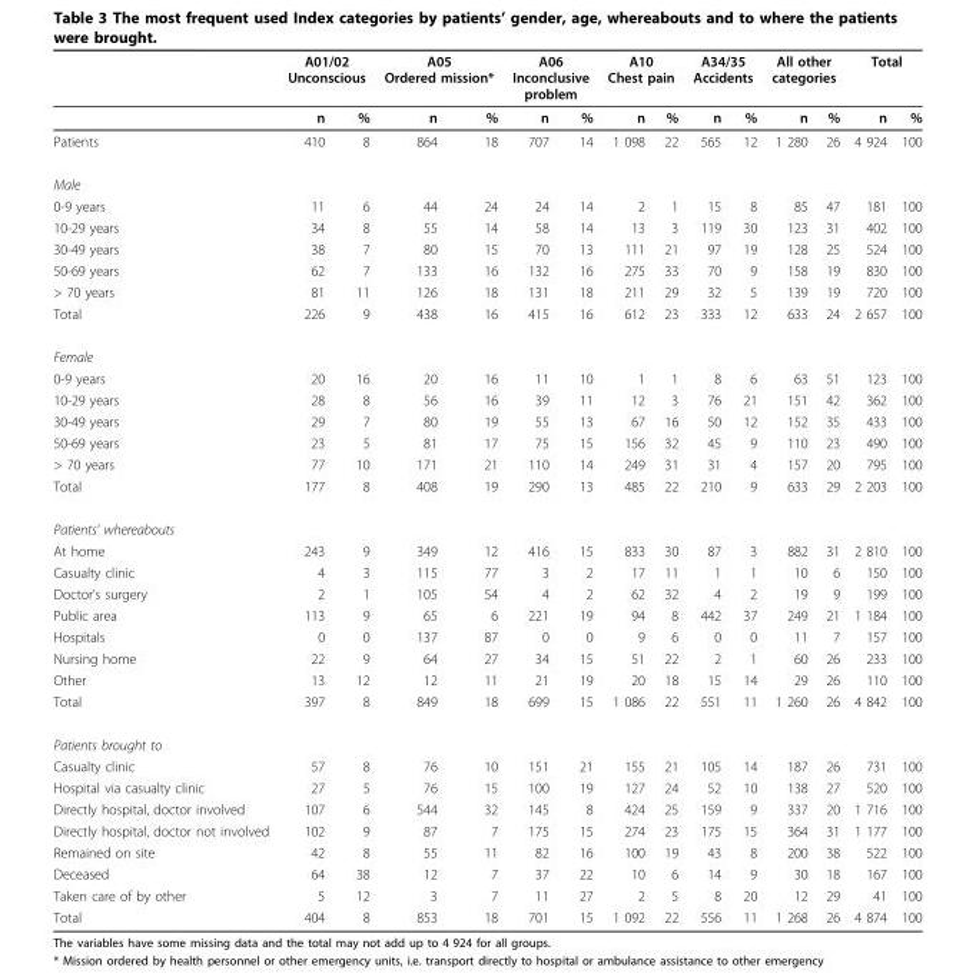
<table><thead><tr><td rowspan="2"></td><td colspan="2">A01/02 Unconscious</td><td colspan="2">A05 Ordered mission*</td><td colspan="2">A06 Inconclusive problem</td><td colspan="2">A10 Chest pain</td><td colspan="2">A34/35 Accidents</td><td colspan="2">All other categories</td><td colspan="2">Total</td></tr><tr><td>n</td><td>%</td><td>n</td><td>%</td><td>n</td><td>%</td><td>n</td><td>%</td><td>n</td><td>%</td><td>n</td><td>%</td><td>n</td><td>%</td></tr></thead><tbody><tr><td>Patients</td><td>410</td><td>8</td><td>864</td><td>18</td><td>707</td><td>14</td><td>1 098</td><td>22</td><td>565</td><td>12</td><td>1 280</td><td>26</td><td>4 924</td><td>100</td></tr><tr><td colspan="15">Male</td></tr><tr><td>0-9 years</td><td>11</td><td>6</td><td>44</td><td>24</td><td>24</td><td>14</td><td>2</td><td>1</td><td>15</td><td>8</td><td>85</td><td>47</td><td>181</td><td>100</td></tr><tr><td>10-29 years</td><td>34</td><td>8</td><td>55</td><td>14</td><td>58</td><td>14</td><td>13</td><td>3</td><td>119</td><td>30</td><td>123</td><td>31</td><td>402</td><td>100</td></tr><tr><td>30-49 years</td><td>38</td><td>7</td><td>80</td><td>15</td><td>70</td><td>13</td><td>111</td><td>21</td><td>97</td><td>19</td><td>128</td><td>25</td><td>524</td><td>100</td></tr><tr><td>50-69 years</td><td>62</td><td>7</td><td>133</td><td>16</td><td>132</td><td>16</td><td>275</td><td>33</td><td>70</td><td>9</td><td>158</td><td>19</td><td>830</td><td>100</td></tr><tr><td>&gt; 70 years</td><td>81</td><td>11</td><td>126</td><td>18</td><td>131</td><td>18</td><td>211</td><td>29</td><td>32</td><td>5</td><td>139</td><td>19</td><td>720</td><td>100</td></tr><tr><td>Total</td><td>226</td><td>9</td><td>438</td><td>16</td><td>415</td><td>16</td><td>612</td><td>23</td><td>333</td><td>12</td><td>633</td><td>24</td><td>2 657</td><td>100</td></tr><tr><td colspan="15">Female</td></tr><tr><td>0-9 years</td><td>20</td><td>16</td><td>20</td><td>16</td><td>11</td><td>10</td><td>1</td><td>1</td><td>8</td><td>6</td><td>63</td><td>51</td><td>123</td><td>100</td></tr><tr><td>10-29 years</td><td>28</td><td>8</td><td>56</td><td>16</td><td>39</td><td>11</td><td>12</td><td>3</td><td>76</td><td>21</td><td>151</td><td>42</td><td>362</td><td>100</td></tr><tr><td>30-49 years</td><td>29</td><td>7</td><td>80</td><td>19</td><td>55</td><td>13</td><td>67</td><td>16</td><td>50</td><td>12</td><td>152</td><td>35</td><td>433</td><td>100</td></tr><tr><td>50-69 years</td><td>23</td><td>5</td><td>81</td><td>17</td><td>75</td><td>15</td><td>156</td><td>32</td><td>45</td><td>9</td><td>110</td><td>23</td><td>490</td><td>100</td></tr><tr><td>&gt; 70 years</td><td>77</td><td>10</td><td>171</td><td>21</td><td>110</td><td>14</td><td>249</td><td>31</td><td>31</td><td>4</td><td>157</td><td>20</td><td>795</td><td>100</td></tr><tr><td>Total</td><td>177</td><td>8</td><td>408</td><td>19</td><td>290</td><td>13</td><td>485</td><td>22</td><td>210</td><td>9</td><td>633</td><td>29</td><td>2 203</td><td>100</td></tr><tr><td colspan="15">Patients’ whereabouts</td></tr><tr><td>At home</td><td>243</td><td>9</td><td>349</td><td>12</td><td>416</td><td>15</td><td>833</td><td>30</td><td>87</td><td>3</td><td>882</td><td>31</td><td>2 810</td><td>100</td></tr><tr><td>Casualty clinic</td><td>4</td><td>3</td><td>115</td><td>77</td><td>3</td><td>2</td><td>17</td><td>11</td><td>1</td><td>1</td><td>10</td><td>6</td><td>150</td><td>100</td></tr><tr><td>Doctor’s surgery</td><td>2</td><td>1</td><td>105</td><td>54</td><td>4</td><td>2</td><td>62</td><td>32</td><td>4</td><td>2</td><td>19</td><td>9</td><td>199</td><td>100</td></tr><tr><td>Public area</td><td>113</td><td>9</td><td>65</td><td>6</td><td>221</td><td>19</td><td>94</td><td>8</td><td>442</td><td>37</td><td>249</td><td>21</td><td>1 184</td><td>100</td></tr><tr><td>Hospitals</td><td>0</td><td>0</td><td>137</td><td>87</td><td>0</td><td>0</td><td>9</td><td>6</td><td>0</td><td>0</td><td>11</td><td>7</td><td>157</td><td>100</td></tr><tr><td>Nursing home</td><td>22</td><td>9</td><td>64</td><td>27</td><td>34</td><td>15</td><td>51</td><td>22</td><td>2</td><td>1</td><td>60</td><td>26</td><td>233</td><td>100</td></tr><tr><td>Other</td><td>13</td><td>12</td><td>12</td><td>11</td><td>21</td><td>19</td><td>20</td><td>18</td><td>15</td><td>14</td><td>29</td><td>26</td><td>110</td><td>100</td></tr><tr><td>Total</td><td>397</td><td>8</td><td>849</td><td>18</td><td>699</td><td>15</td><td>1 086</td><td>22</td><td>551</td><td>11</td><td>1 260</td><td>26</td><td>4 842</td><td>100</td></tr><tr><td colspan="15">Patients brought to</td></tr><tr><td>Casualty clinic</td><td>57</td><td>8</td><td>76</td><td>10</td><td>151</td><td>21</td><td>155</td><td>21</td><td>105</td><td>14</td><td>187</td><td>26</td><td>731</td><td>100</td></tr><tr><td>Hospital via casualty clinic</td><td>27</td><td>5</td><td>76</td><td>15</td><td>100</td><td>19</td><td>127</td><td>24</td><td>52</td><td>10</td><td>138</td><td>27</td><td>520</td><td>100</td></tr><tr><td>Directly hospital, doctor involved</td><td>107</td><td>6</td><td>544</td><td>32</td><td>145</td><td>8</td><td>424</td><td>25</td><td>159</td><td>9</td><td>337</td><td>20</td><td>1 716</td><td>100</td></tr><tr><td>Directly hospital, doctor not involved</td><td>102</td><td>9</td><td>87</td><td>7</td><td>175</td><td>15</td><td>274</td><td>23</td><td>175</td><td>15</td><td>364</td><td>31</td><td>1 177</td><td>100</td></tr><tr><td>Remained on site</td><td>42</td><td>8</td><td>55</td><td>11</td><td>82</td><td>16</td><td>100</td><td>19</td><td>43</td><td>8</td><td>200</td><td>38</td><td>522</td><td>100</td></tr><tr><td>Deceased</td><td>64</td><td>38</td><td>12</td><td>7</td><td>37</td><td>22</td><td>10</td><td>6</td><td>14</td><td>9</td><td>30</td><td>18</td><td>167</td><td>100</td></tr><tr><td>Taken care of by other</td><td>5</td><td>12</td><td>3</td><td>7</td><td>11</td><td>27</td><td>2</td><td>5</td><td>8</td><td>20</td><td>12</td><td>29</td><td>41</td><td>100</td></tr><tr><td>Total</td><td>404</td><td>8</td><td>853</td><td>18</td><td>701</td><td>15</td><td>1 092</td><td>22</td><td>556</td><td>11</td><td>1 268</td><td>26</td><td>4 874</td><td>100</td></tr></tbody></table>